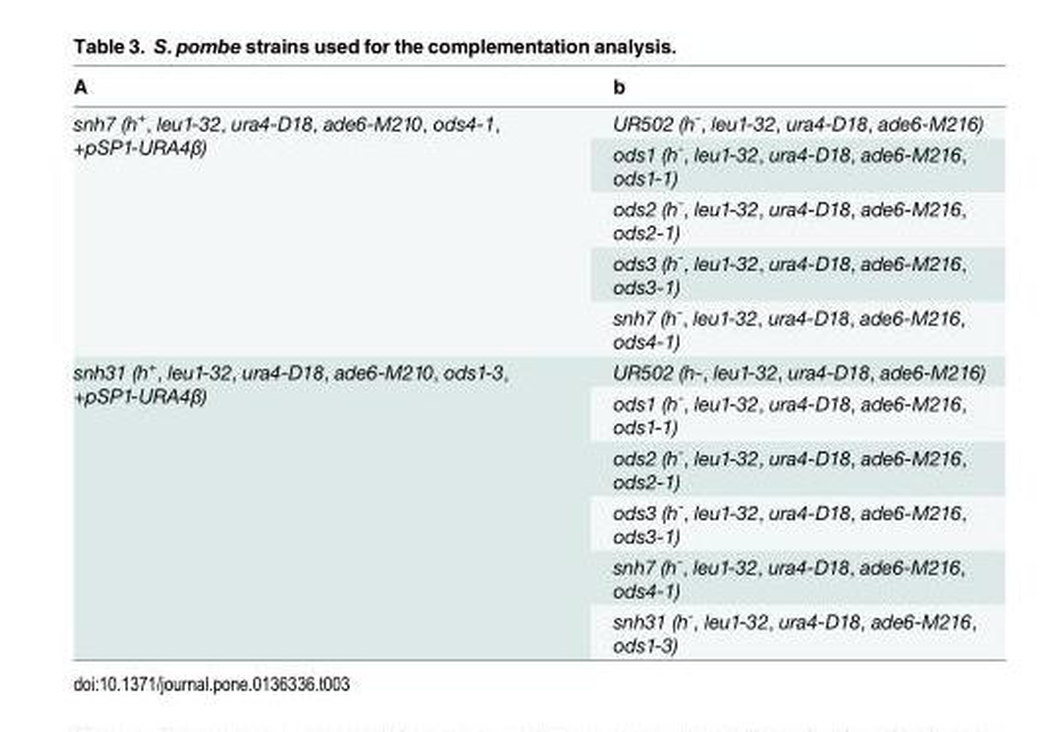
<table><thead><tr><td>A</td><td>b</td></tr></thead><tbody><tr><td rowspan="5">snh7 (h<sup>+</sup>, leu1-32, ura4-D18, ade6-M210, ods4-1, +pSP1-URA4β)</td><td>UR502 (h<sup>-</sup>, leu1-32, ura4-D18, ade6-M216)</td></tr><tr><td>ods1 (h<sup>-</sup>, leu1-32, ura4-D18, ade6-M216, ods1-1)</td></tr><tr><td>ods2 (h<sup>-</sup>, leu1-32, ura4-D18, ade6-M216, ods2-1)</td></tr><tr><td>ods3 (h<sup>-</sup>, leu1-32, ura4-D18, ade6-M216, ods3-1)</td></tr><tr><td>snh7 (h<sup>-</sup>, leu1-32, ura4-D18, ade6-M216, ods4-1)</td></tr><tr><td rowspan="6">snh31 (h<sup>+</sup>, leu1-32, ura4-D18, ade6-M210, ods1-3, +pSP1-URA4β)</td><td>UR502 (h-, leu1-32, ura4-D18, ade6-M216)</td></tr><tr><td>ods1 (h<sup>-</sup>, leu1-32, ura4-D18, ade6-M216, ods1-1)</td></tr><tr><td>ods2 (h<sup>-</sup>, leu1-32, ura4-D18, ade6-M216, ods2-1)</td></tr><tr><td>ods3 (h<sup>-</sup>, leu1-32, ura4-D18, ade6-M216, ods3-1)</td></tr><tr><td>snh7 (h<sup>-</sup>, leu1-32, ura4-D18, ade6-M216, ods4-1)</td></tr><tr><td>snh31 (h<sup>-</sup>, leu1-32, ura4-D18, ade6-M216, ods1-3)</td></tr></tbody></table>